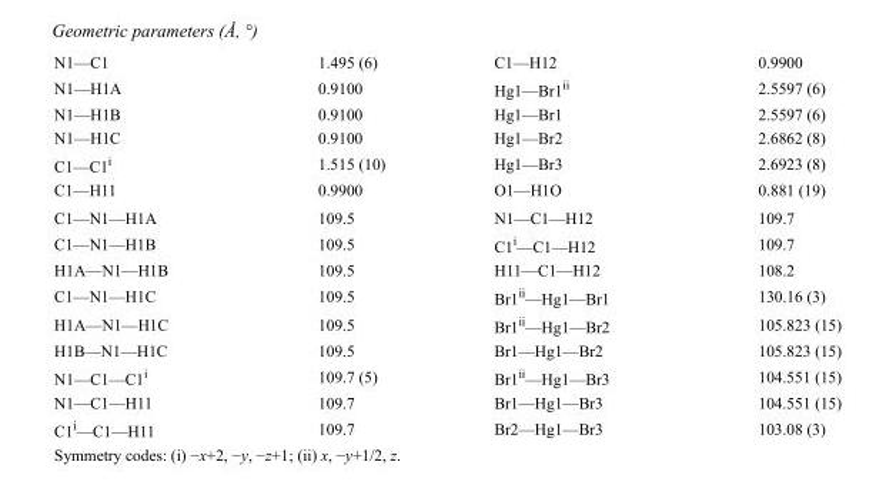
<table><tbody><tr><td>N1—C1</td><td>1.495 (6)</td><td>C1—H12</td><td>0.9900</td></tr><tr><td>N1—H1A</td><td>0.9100</td><td>Hg1—Br1<sup>ii</sup></td><td>2.5597 (6)</td></tr><tr><td>N1—H1B</td><td>0.9100</td><td>Hg1—Br1</td><td>2.5597 (6)</td></tr><tr><td>N1—H1C</td><td>0.9100</td><td>Hg1—Br2</td><td>2.6862 (8)</td></tr><tr><td>C1—C1<sup>i</sup></td><td>1.515 (10)</td><td>Hg1—Br3</td><td>2.6923 (8)</td></tr><tr><td>C1—H11</td><td>0.9900</td><td>O1—H1O</td><td>0.881 (19)</td></tr><tr><td>C1—N1—H1A</td><td>109.5</td><td>N1—C1—H12</td><td>109.7</td></tr><tr><td>C1—N1—H1B</td><td>109.5</td><td>C1<sup>i</sup>—C1—H12</td><td>109.7</td></tr><tr><td>H1A—N1—H1B</td><td>109.5</td><td>H11—C1—H12</td><td>108.2</td></tr><tr><td>C1—N1—H1C</td><td>109.5</td><td>Br1<sup>ii</sup>—Hg1—Br1</td><td>130.16 (3)</td></tr><tr><td>H1A—N1—H1C</td><td>109.5</td><td>Br1<sup>ii</sup>—Hg1—Br2</td><td>105.823 (15)</td></tr><tr><td>H1B—N1—H1C</td><td>109.5</td><td>Br1—Hg1—Br2</td><td>105.823 (15)</td></tr><tr><td>N1—C1—C1<sup>i</sup></td><td>109.7 (5)</td><td>Br1<sup>ii</sup>—Hg1—Br3</td><td>104.551 (15)</td></tr><tr><td>N1—C1—H11</td><td>109.7</td><td>Br1—Hg1—Br3</td><td>104.551 (15)</td></tr><tr><td>C1<sup>i</sup>—C1—H11</td><td>109.7</td><td>Br2—Hg1—Br3</td><td>103.08 (3)</td></tr></tbody></table>